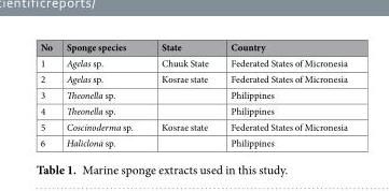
<table><thead><tr><td>No</td><td>Sponge species</td><td>State</td><td>Country</td></tr></thead><tbody><tr><td>1</td><td>Agelas sp.</td><td>Chuuk State</td><td>Federated States of Micronesia</td></tr><tr><td>2</td><td>Agelas sp.</td><td>Kosrae state</td><td>Federated States of Micronesia</td></tr><tr><td>3</td><td>Theonella sp.</td><td></td><td>Philippines</td></tr><tr><td>4</td><td>Theonella sp.</td><td></td><td>Philippines</td></tr><tr><td>5</td><td>Coscinoderma sp.</td><td>Kosrae state</td><td>Federated States of Micronesia</td></tr><tr><td>6</td><td>Haliclona sp.</td><td></td><td>Philippines</td></tr></tbody></table>